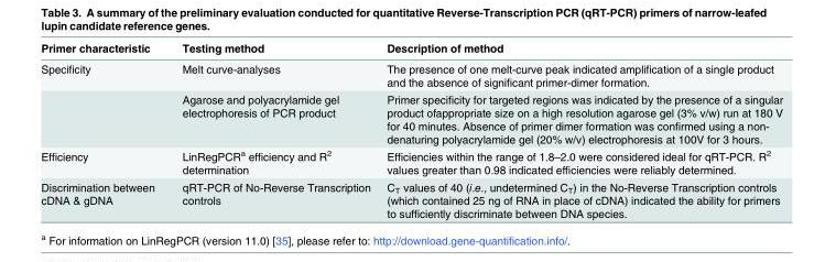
<table><thead><tr><td>Primer characteristic</td><td>Testing method</td><td>Description of method</td></tr></thead><tbody><tr><td rowspan="2">Specificity</td><td>Melt curve-analyses</td><td>The presence of one melt-curve peak indicated amplification of a single product and the absence of significant primer-dimer formation.</td></tr><tr><td>Agarose and polyacrylamide gel electrophoresis of PCR product</td><td>Primer specificity for targeted regions was indicated by the presence of a singular product ofappropriate size on a high resolution agarose gel (3% v/w) run at 180 V for 40 minutes. Absence of primer dimer formation was confirmed using a non- denaturing polyacrylamide gel (20% w/v) electrophoresis at 100V for 3 hours.</td></tr><tr><td>Efficiency</td><td>LinRegPCR<sup>a</sup> efficiency and R<sup>2</sup> determination</td><td>Efficiencies within the range of 1.8–2.0 were considered ideal for qRT-PCR. R<sup>2</sup> values greater than 0.98 indicated efficiencies were reliably determined.</td></tr><tr><td>Discrimination between cDNA &amp; gDNA</td><td>qRT-PCR of No-Reverse Transcription controls</td><td>C<sub>T</sub> values of 40 (i.e., undetermined C<sub>T</sub>) in the No-Reverse Transcription controls (which contained 25 ng of RNA in place of cDNA) indicated the ability for primers to sufficiently discriminate between DNA species.</td></tr></tbody></table>